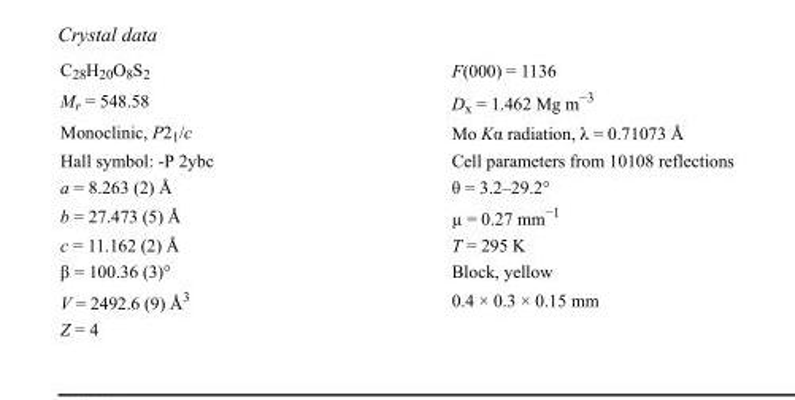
<table><tbody><tr><td>C<sub>28</sub>H<sub>20</sub>O<sub>8</sub>S<sub>2</sub></td><td>F(000) = 1136</td></tr><tr><td>M<sub>r</sub> = 548.58</td><td>D<sub>x</sub> = 1.462 Mg m<sup>−3</sup></td></tr><tr><td>Monoclinic, P2<sub>1</sub>/c</td><td>Mo Kα radiation, λ = 0.71073 Å</td></tr><tr><td>Hall symbol: -P 2ybc</td><td>Cell parameters from 10108 reflections</td></tr><tr><td>a = 8.263 (2) Å</td><td>θ = 3.2–29.2°</td></tr><tr><td>b = 27.473 (5) Å</td><td>µ = 0.27 mm<sup>−1</sup></td></tr><tr><td>c = 11.162 (2) Å</td><td>T = 295 K</td></tr><tr><td>β = 100.36 (3)°</td><td>Block, yellow</td></tr><tr><td>V = 2492.6 (9) Å<sup>3</sup></td><td>0.4 × 0.3 × 0.15 mm</td></tr><tr><td>Z = 4</td><td></td></tr></tbody></table>